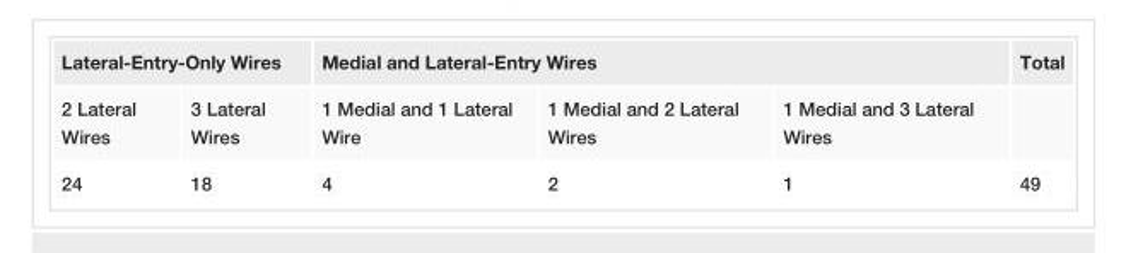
<table><tbody><tr><td colspan="2">Lateral-Entry-Only Wires</td><td colspan="3">Medial and Lateral-Entry Wires</td><td>Total</td></tr><tr><td>2 Lateral Wires</td><td>3 Lateral Wires</td><td>1 Medial and 1 Lateral Wire</td><td>1 Medial and 2 Lateral Wires</td><td>1 Medial and 3 Lateral Wires</td><td></td></tr><tr><td>24</td><td>18</td><td>4</td><td>2</td><td>1</td><td>49</td></tr></tbody></table>